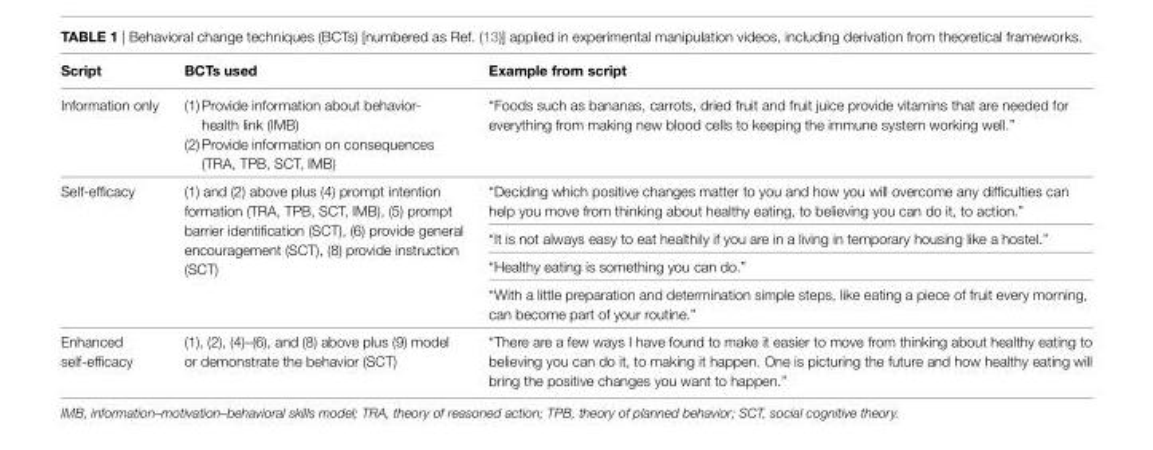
<table><thead><tr><td>script</td><td>BcTs used</td><td>example from script</td></tr></thead><tbody><tr><td>Information only</td><td>(1) Provide information about behavior- health link (IMB) (2) Provide information on consequences (TRA, TPB, SCT, IMB)</td><td>“Foods such as bananas, carrots, dried fruit and fruit juice provide vitamins that are needed for everything from making new blood cells to keeping the immune system working well.”</td></tr><tr><td rowspan="4">Self-efficacy</td><td rowspan="4">(1) and (2) above plus (4) prompt intention formation (TRA, TPB, SCT, IMB), (5) prompt barrier identification (SCT), (6) provide general encouragement (SCT), (8) provide instruction (SCT)</td><td>“Deciding which positive changes matter to you and how you will overcome any difficulties can help you move from thinking about healthy eating, to believing you can do it, to action.”</td></tr><tr><td>“It is not always easy to eat healthily if you are in a living in temporary housing like a hostel.”</td></tr><tr><td>“Healthy eating is something you can do.”</td></tr><tr><td>“With a little preparation and determination simple steps, like eating a piece of fruit every morning, can become part of your routine.”</td></tr><tr><td>Enhanced self-efficacy</td><td>(1), (2), (4)–(6), and (8) above plus (9) model or demonstrate the behavior (SCT)</td><td>“There are a few ways I have found to make it easier to move from thinking about healthy eating to believing you can do it, to making it happen. One is picturing the future and how healthy eating will bring the positive changes you want to happen.”</td></tr></tbody></table>